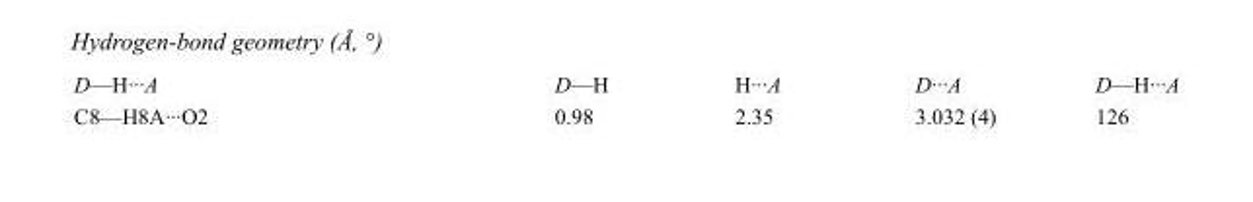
<table><tbody><tr><td>D—H···A</td><td>D—H</td><td>H···A</td><td>D···A</td><td>D—H···A</td></tr><tr><td>C8—H8A···O2</td><td>0.98</td><td>2.35</td><td>3.032 (4)</td><td>126</td></tr></tbody></table>